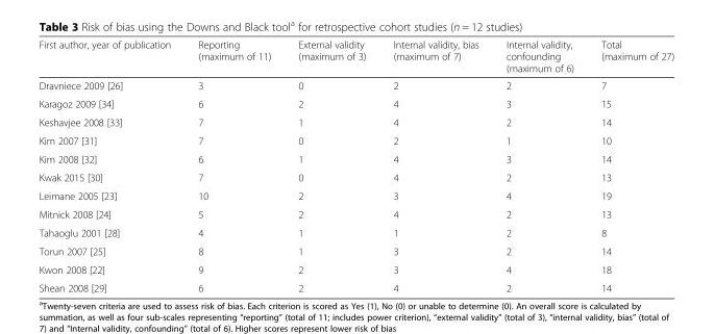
<table><thead><tr><td>First author, year of publication</td><td>Reporting (maximum of 11)</td><td>External validity (maximum of 3)</td><td>Internal validity, bias (maximum of 7)</td><td>Internal validity, confounding (maximum of 6)</td><td>Total (maximum of 27)</td></tr></thead><tbody><tr><td>Dravniece 2009 [26]</td><td>3</td><td>0</td><td>2</td><td>2</td><td>7</td></tr><tr><td>Karagoz 2009 [34]</td><td>6</td><td>2</td><td>4</td><td>3</td><td>15</td></tr><tr><td>Keshavjee 2008 [33]</td><td>7</td><td>1</td><td>4</td><td>2</td><td>14</td></tr><tr><td>Kim 2007 [31]</td><td>7</td><td>0</td><td>2</td><td>1</td><td>10</td></tr><tr><td>Kim 2008 [32]</td><td>6</td><td>1</td><td>4</td><td>3</td><td>14</td></tr><tr><td>Kwak 2015 [30]</td><td>7</td><td>0</td><td>4</td><td>2</td><td>13</td></tr><tr><td>Leimane 2005 [23]</td><td>10</td><td>2</td><td>3</td><td>4</td><td>19</td></tr><tr><td>Mitnick 2008 [24]</td><td>5</td><td>2</td><td>4</td><td>2</td><td>13</td></tr><tr><td>Tahaoglu 2001 [28]</td><td>4</td><td>1</td><td>1</td><td>2</td><td>8</td></tr><tr><td>Torun 2007 [25]</td><td>8</td><td>1</td><td>3</td><td>2</td><td>14</td></tr><tr><td>Kwon 2008 [22]</td><td>9</td><td>2</td><td>3</td><td>4</td><td>18</td></tr><tr><td>Shean 2008 [29]</td><td>6</td><td>2</td><td>4</td><td>2</td><td>14</td></tr></tbody></table>